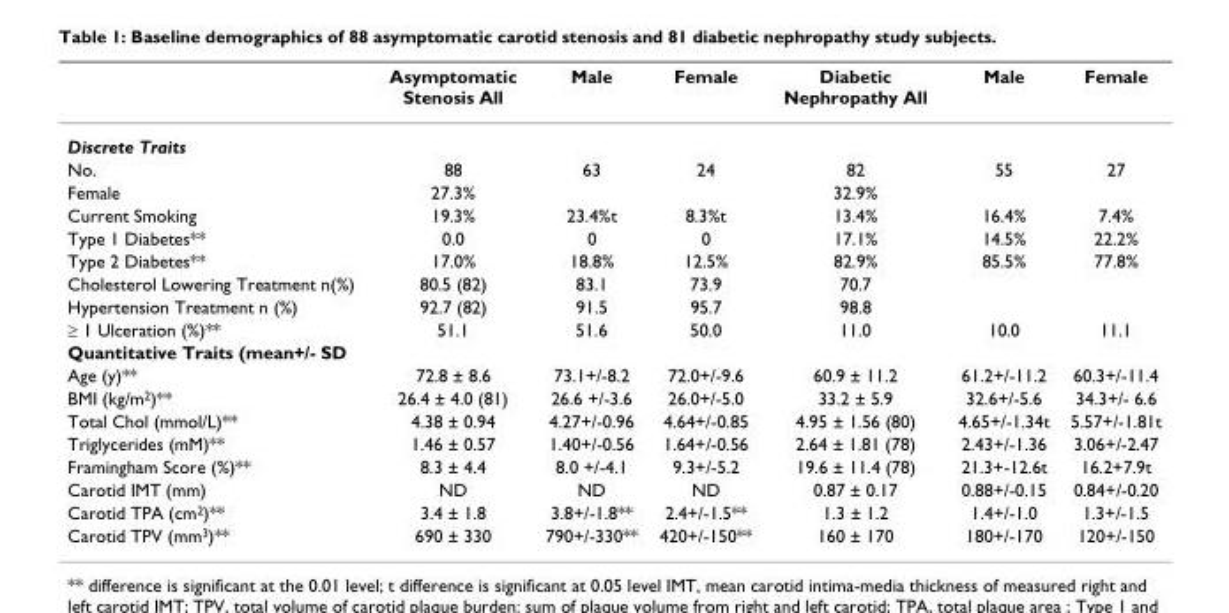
<table><thead><tr><td></td><td>Asymptomatic Stenosis All</td><td>Male</td><td>Female</td><td>Diabetic Nephropathy All</td><td>Male</td><td>Female</td></tr></thead><tbody><tr><td colspan="7">Discrete Traits</td></tr><tr><td>No.</td><td>88</td><td>63</td><td>24</td><td>82</td><td>55</td><td>27</td></tr><tr><td>Female</td><td>27.3%</td><td></td><td></td><td>32.9%</td><td></td><td></td></tr><tr><td>Current Smoking</td><td>19.3%</td><td>23.4%t</td><td>8.3%t</td><td>13.4%</td><td>16.4%</td><td>7.4%</td></tr><tr><td>Type 1 Diabetes**</td><td>0.0</td><td>0</td><td>0</td><td>17.1%</td><td>14.5%</td><td>22.2%</td></tr><tr><td>Type 2 Diabetes**</td><td>17.0%</td><td>18.8%</td><td>12.5%</td><td>82.9%</td><td>85.5%</td><td>77.8%</td></tr><tr><td>Cholesterol Lowering Treatment n(%)</td><td>80.5 (82)</td><td>83.1</td><td>73.9</td><td>70.7</td><td></td><td></td></tr><tr><td>Hypertension Treatment n (%)</td><td>92.7 (82)</td><td>91.5</td><td>95.7</td><td>98.8</td><td></td><td></td></tr><tr><td>≥ 1 Ulceration (%)**</td><td>51.1</td><td>51.6</td><td>50.0</td><td>11.0</td><td>10.0</td><td>11.1</td></tr><tr><td colspan="7">Quantitative Traits (mean+/- SD</td></tr><tr><td>Age (y)**</td><td>72.8 ± 8.6</td><td>73.1+/-8.2</td><td>72.0+/-9.6</td><td>60.9 ± 11.2</td><td>61.2+/-11.2</td><td>60.3+/-11.4</td></tr><tr><td>BMI (kg/m<sup>2</sup>)**</td><td>26.4 ± 4.0 (81)</td><td>26.6 +/-3.6</td><td>26.0+/-5.0</td><td>33.2 ± 5.9</td><td>32.6+/-5.6</td><td>34.3+/- 6.6</td></tr><tr><td>Total Chol (mmol/L)**</td><td>4.38 ± 0.94</td><td>4.27+/-0.96</td><td>4.64+/-0.85</td><td>4.95 ± 1.56 (80)</td><td>4.65+/-1.34t</td><td>5.57+/-1.81t</td></tr><tr><td>Triglycerides (mM)**</td><td>1.46 ± 0.57</td><td>1.40+/-0.56</td><td>1.64+/-0.56</td><td>2.64 ± 1.81 (78)</td><td>2.43+/-1.36</td><td>3.06+/-2.47</td></tr><tr><td>Framingham Score (%)**</td><td>8.3 ± 4.4</td><td>8.0 +/-4.1</td><td>9.3+/-5.2</td><td>19.6 ± 11.4 (78)</td><td>21.3+-12.6t</td><td>16.2+7.9t</td></tr><tr><td>Carotid IMT (mm)</td><td>ND</td><td>ND</td><td>ND</td><td>0.87 ± 0.17</td><td>0.88+/-0.15</td><td>0.84+/-0.20</td></tr><tr><td>Carotid TPA (cm<sup>2</sup>)**</td><td>3.4 ± 1.8</td><td>3.8+/-1.8**</td><td>2.4+/-1.5**</td><td>1.3 ± 1.2</td><td>1.4+/-1.0</td><td>1.3+/-1.5</td></tr><tr><td>Carotid TPV (mm<sup>3</sup>)**</td><td>690 ± 330</td><td>790+/-330**</td><td>420+/-150**</td><td>160 ± 170</td><td>180+/-170</td><td>120+/-150</td></tr></tbody></table>